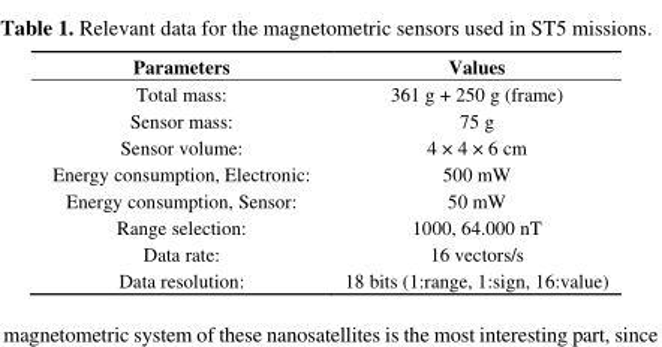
<table><thead><tr><td>Parameters</td><td>Values</td></tr></thead><tbody><tr><td>Total mass:</td><td>361 g + 250 g (frame)</td></tr><tr><td>Sensor mass:</td><td>75 g</td></tr><tr><td>Sensor volume:</td><td>4 × 4 × 6 cm</td></tr><tr><td>Energy consumption, Electronic:</td><td>500 mW</td></tr><tr><td>Energy consumption, Sensor:</td><td>50 mW</td></tr><tr><td>Range selection:</td><td>1000, 64.000 nT</td></tr><tr><td>Data rate:</td><td>16 vectors/s</td></tr><tr><td>Data resolution:</td><td>18 bits (1:range, 1:sign, 16:value)</td></tr></tbody></table>